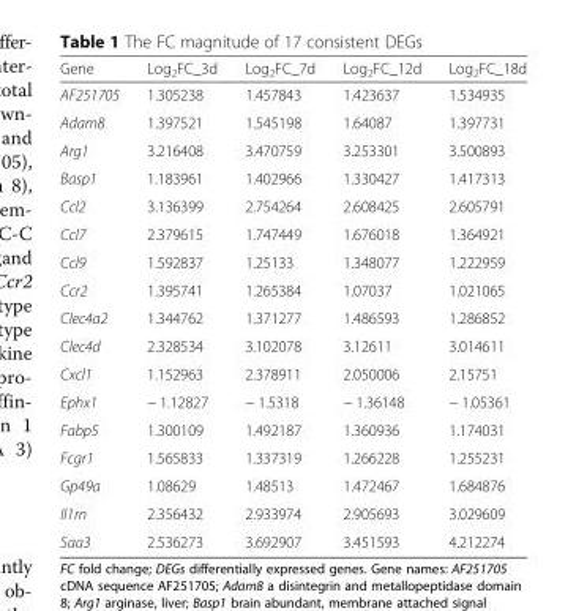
<table><thead><tr><td>Gene</td><td>Log<sub>2</sub>FC_3d</td><td>Log<sub>2</sub>FC_7d</td><td>Log<sub>2</sub>FC_12d</td><td>Log<sub>2</sub>FC_18d</td></tr></thead><tbody><tr><td>AF251705</td><td>1.305238</td><td>1.457843</td><td>1.423637</td><td>1.534935</td></tr><tr><td>Adam8</td><td>1.397521</td><td>1.545198</td><td>1.64087</td><td>1.397731</td></tr><tr><td>Arg1</td><td>3.216408</td><td>3.470759</td><td>3.253301</td><td>3.500893</td></tr><tr><td>Basp1</td><td>1.183961</td><td>1.402966</td><td>1.330427</td><td>1.417313</td></tr><tr><td>Ccl2</td><td>3.136399</td><td>2.754264</td><td>2.608425</td><td>2.605791</td></tr><tr><td>Ccl7</td><td>2.379615</td><td>1.747449</td><td>1.676018</td><td>1.364921</td></tr><tr><td>Ccl9</td><td>1.592837</td><td>1.25133</td><td>1.348077</td><td>1.222959</td></tr><tr><td>Ccr2</td><td>1.395741</td><td>1.265384</td><td>1.07037</td><td>1.021065</td></tr><tr><td>Clec4a2</td><td>1.344762</td><td>1.371277</td><td>1.486593</td><td>1.286852</td></tr><tr><td>Clec4d</td><td>2.328534</td><td>3.102078</td><td>3.12611</td><td>3.014611</td></tr><tr><td>Cxcl1</td><td>1.152963</td><td>2.378911</td><td>2.050006</td><td>2.15751</td></tr><tr><td>Ephx1</td><td>− 1.12827</td><td>− 1.5318</td><td>− 1.36148</td><td>− 1.05361</td></tr><tr><td>Fabp5</td><td>1.300109</td><td>1.492187</td><td>1.360936</td><td>1.174031</td></tr><tr><td>Fcgr1</td><td>1.565833</td><td>1.337319</td><td>1.266228</td><td>1.255231</td></tr><tr><td>Gp49a</td><td>1.08629</td><td>1.48513</td><td>1.472467</td><td>1.684876</td></tr><tr><td>Il1rn</td><td>2.356432</td><td>2.933974</td><td>2.905693</td><td>3.029609</td></tr><tr><td>Saa3</td><td>2.536273</td><td>3.692907</td><td>3.451593</td><td>4.212274</td></tr></tbody></table>